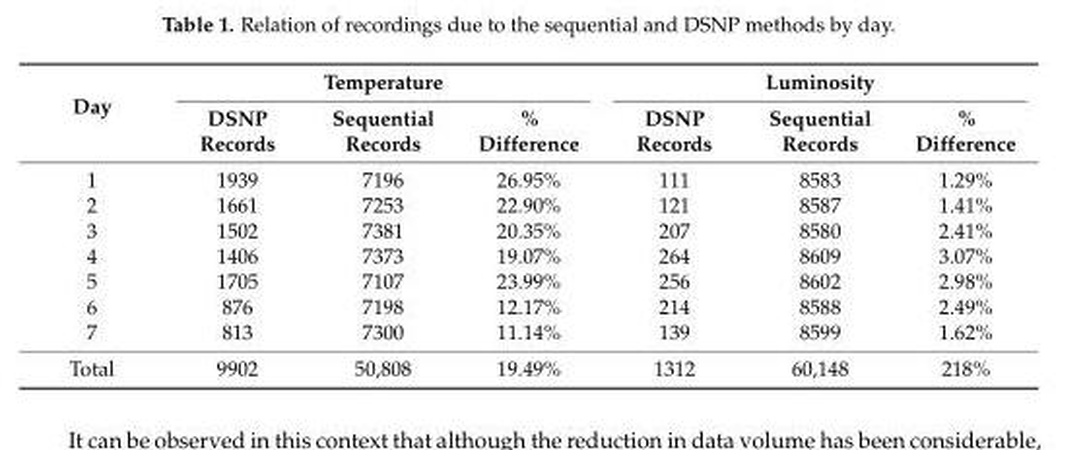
<table><thead><tr><td rowspan="2">Day</td><td colspan="3">Temperature</td><td colspan="3">Luminosity</td></tr><tr><td>DSNP Records</td><td>Sequential Records</td><td>% Difference</td><td>DSNP Records</td><td>Sequential Records</td><td>% Difference</td></tr></thead><tbody><tr><td>1</td><td>1939</td><td>7196</td><td>26.95%</td><td>111</td><td>8583</td><td>1.29%</td></tr><tr><td>2</td><td>1661</td><td>7253</td><td>22.90%</td><td>121</td><td>8587</td><td>1.41%</td></tr><tr><td>3</td><td>1502</td><td>7381</td><td>20.35%</td><td>207</td><td>8580</td><td>2.41%</td></tr><tr><td>4</td><td>1406</td><td>7373</td><td>19.07%</td><td>264</td><td>8609</td><td>3.07%</td></tr><tr><td>5</td><td>1705</td><td>7107</td><td>23.99%</td><td>256</td><td>8602</td><td>2.98%</td></tr><tr><td>6</td><td>876</td><td>7198</td><td>12.17%</td><td>214</td><td>8588</td><td>2.49%</td></tr><tr><td>7</td><td>813</td><td>7300</td><td>11.14%</td><td>139</td><td>8599</td><td>1.62%</td></tr><tr><td>Total</td><td>9902</td><td>50,808</td><td>19.49%</td><td>1312</td><td>60,148</td><td>218%</td></tr></tbody></table>